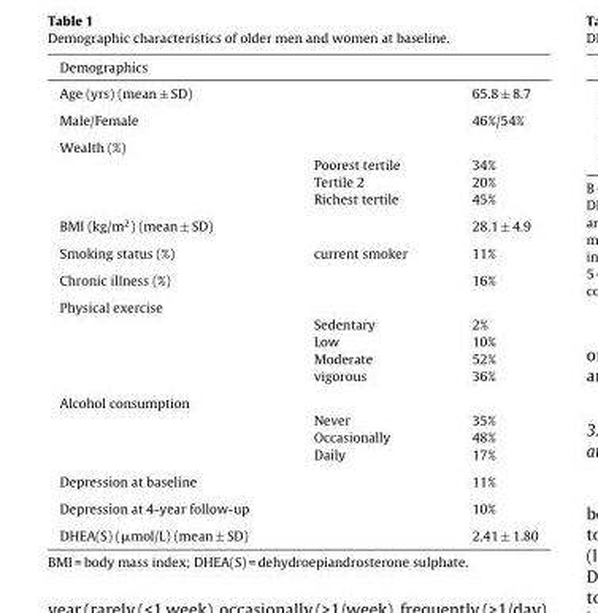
<table><thead><tr><td>Demographics</td><td></td><td></td></tr></thead><tbody><tr><td>Age (yrs) (mean ± SD)</td><td></td><td>65.8 ± 8.7</td></tr><tr><td>Male/Female</td><td></td><td>46%/54%</td></tr><tr><td colspan="3">Wealth (%)</td></tr><tr><td></td><td>Poorest tertile</td><td>34%</td></tr><tr><td></td><td>Tertile 2</td><td>20%</td></tr><tr><td></td><td>Richest tertile</td><td>45%</td></tr><tr><td>BMI (kg/m<sup>2</sup>) (mean ± SD)</td><td></td><td>28.1 ± 4.9</td></tr><tr><td>Smoking status (%)</td><td>current smoker</td><td>11%</td></tr><tr><td>Chronic illness (%)</td><td></td><td>16%</td></tr><tr><td colspan="3">Physical exercise</td></tr><tr><td></td><td>Sedentary</td><td>2%</td></tr><tr><td></td><td>Low</td><td>10%</td></tr><tr><td></td><td>Moderate</td><td>52%</td></tr><tr><td></td><td>vigorous</td><td>36%</td></tr><tr><td colspan="3">Alcohol consumption</td></tr><tr><td></td><td>Never</td><td>35%</td></tr><tr><td></td><td>Occasionally</td><td>48%</td></tr><tr><td></td><td>Daily</td><td>17%</td></tr><tr><td>Depression at baseline</td><td></td><td>11%</td></tr><tr><td>Depression at 4-year follow-up</td><td></td><td>10%</td></tr><tr><td>DHEA(S) (μmol/L) (mean ± SD)</td><td></td><td>2.41 ± 1.80</td></tr></tbody></table>